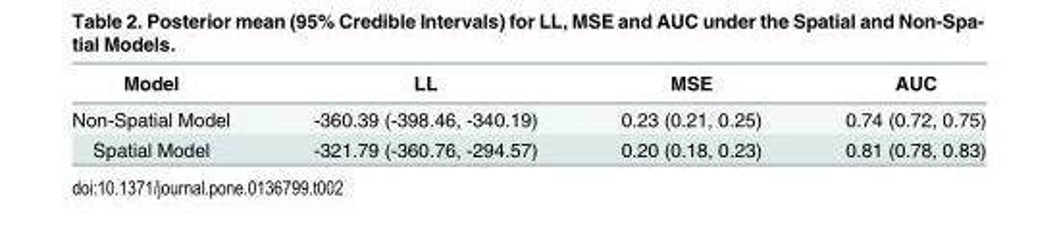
<table><thead><tr><td>Model</td><td>LL</td><td>MSE</td><td>AUC</td></tr></thead><tbody><tr><td>Non-Spatial Model</td><td>-360.39 (-398.46, -340.19)</td><td>0.23 (0.21, 0.25)</td><td>0.74 (0.72, 0.75)</td></tr><tr><td>Spatial Model</td><td>-321.79 (-360.76, -294.57)</td><td>0.20 (0.18, 0.23)</td><td>0.81 (0.78, 0.83)</td></tr></tbody></table>